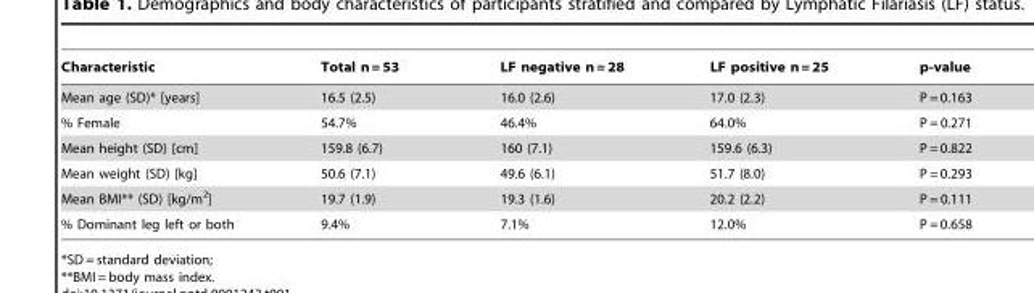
<table><thead><tr><td>Characteristic</td><td>Total n = 53</td><td>LF negative n = 28</td><td>LF positive n = 25</td><td>p-value</td></tr></thead><tbody><tr><td>Mean age (SD)* [years]</td><td>16.5 (2.5)</td><td>16.0 (2.6)</td><td>17.0 (2.3)</td><td>P = 0.163</td></tr><tr><td>% Female</td><td>54.7%</td><td>46.4%</td><td>64.0%</td><td>P = 0.271</td></tr><tr><td>Mean height (SD) [cm]</td><td>159.8 (6.7)</td><td>160 (7.1)</td><td>159.6 (6.3)</td><td>P = 0.822</td></tr><tr><td>Mean weight (SD) [kg]</td><td>50.6 (7.1)</td><td>49.6 (6.1)</td><td>51.7 (8.0)</td><td>P = 0.293</td></tr><tr><td>Mean BMI** (SD) [kg/m<sup>2</sup>]</td><td>19.7 (1.9)</td><td>19.3 (1.6)</td><td>20.2 (2.2)</td><td>P = 0.111</td></tr><tr><td>% Dominant leg left or both</td><td>9.4%</td><td>7.1%</td><td>12.0%</td><td>P = 0.658</td></tr></tbody></table>